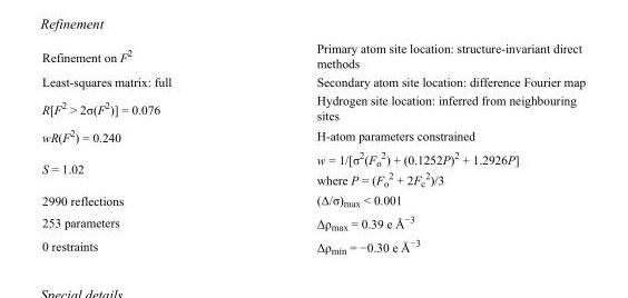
<table><tbody><tr><td>Refinement on F<sup>2</sup></td><td>Primary atom site location: structure-invariant direct methods</td></tr><tr><td>Least-squares matrix: full</td><td>Secondary atom site location: difference Fourier map</td></tr><tr><td>R[F<sup>2</sup> &gt; 2σ(F<sup>2</sup>)] = 0.076</td><td>Hydrogen site location: inferred from neighbouring sites</td></tr><tr><td>wR(F<sup>2</sup>) = 0.240</td><td>H-atom parameters constrained</td></tr><tr><td>S = 1.02</td><td>w = 1/[σ<sup>2</sup>(F<sub>o</sub> <sup>2</sup>) + (0.1252P)<sup>2</sup> + 1.2926P] where P = (F<sub>o</sub> <sup>2</sup> + 2F<sub>c</sub> <sup>2</sup>)/3</td></tr><tr><td>2990 reflections</td><td>(Δ/σ)<sub>max</sub> &lt; 0.001</td></tr><tr><td>253 parameters</td><td>Δρ<sub>max</sub> = 0.39 e Å<sup>−3</sup></td></tr><tr><td>0 restraints</td><td>Δρ<sub>min</sub> = −0.30 e Å<sup>−3</sup></td></tr></tbody></table>